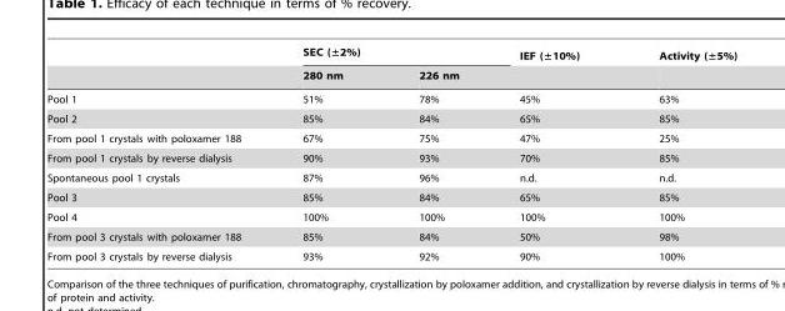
<table><thead><tr><td rowspan="2"></td><td colspan="2">SEC (±2%)</td><td rowspan="2">IEF (±10%)</td><td rowspan="2">Activity (±5%)</td></tr><tr><td>280 nm</td><td>226 nm</td></tr></thead><tbody><tr><td>Pool 1</td><td>51%</td><td>78%</td><td>45%</td><td>63%</td></tr><tr><td>Pool 2</td><td>85%</td><td>84%</td><td>65%</td><td>85%</td></tr><tr><td>From pool 1 crystals with poloxamer 188</td><td>67%</td><td>75%</td><td>47%</td><td>25%</td></tr><tr><td>From pool 1 crystals by reverse dialysis</td><td>90%</td><td>93%</td><td>70%</td><td>85%</td></tr><tr><td>Spontaneous pool 1 crystals</td><td>87%</td><td>96%</td><td>n.d.</td><td>n.d.</td></tr><tr><td>Pool 3</td><td>85%</td><td>84%</td><td>65%</td><td>85%</td></tr><tr><td>Pool 4</td><td>100%</td><td>100%</td><td>100%</td><td>100%</td></tr><tr><td>From pool 3 crystals with poloxamer 188</td><td>85%</td><td>84%</td><td>50%</td><td>98%</td></tr><tr><td>From pool 3 crystals by reverse dialysis</td><td>93%</td><td>92%</td><td>90%</td><td>100%</td></tr></tbody></table>